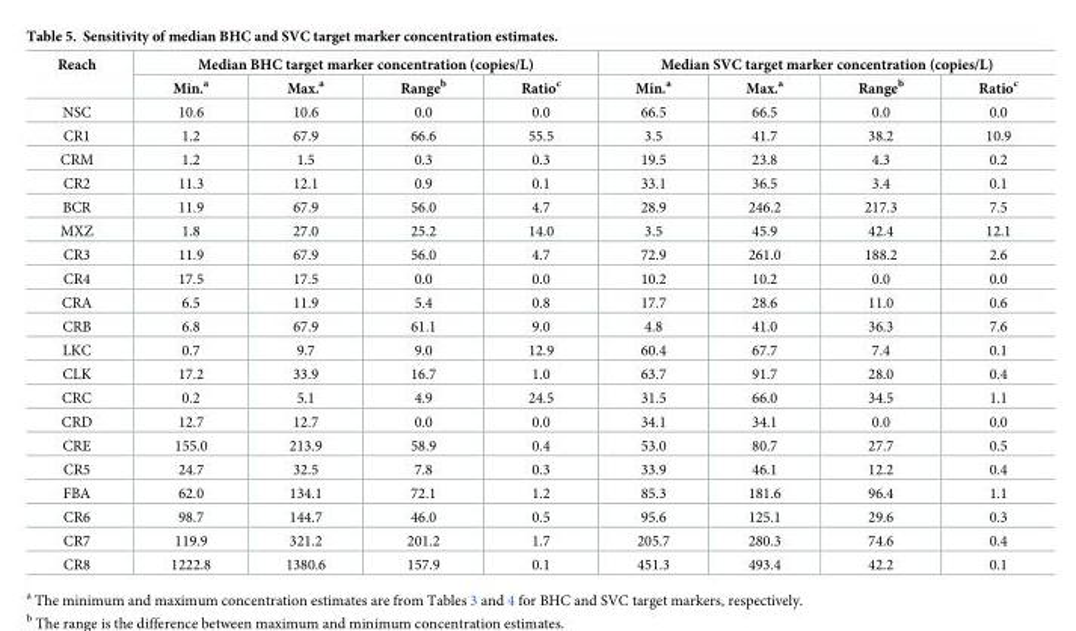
<table><thead><tr><td rowspan="2">Reach</td><td colspan="4">Median BHC target marker concentration (copies/L)</td><td colspan="4">Median SVC target marker concentration (copies/L)</td></tr><tr><td>Min.<sup>a</sup></td><td>Max.<sup>a</sup></td><td>Range<sup>b</sup></td><td>Ratio<sup>c</sup></td><td>Min.<sup>a</sup></td><td>Max.<sup>a</sup></td><td>Range<sup>b</sup></td><td>Ratio<sup>c</sup></td></tr></thead><tbody><tr><td>NSC</td><td>10.6</td><td>10.6</td><td>0.0</td><td>0.0</td><td>66.5</td><td>66.5</td><td>0.0</td><td>0.0</td></tr><tr><td>CR1</td><td>1.2</td><td>67.9</td><td>66.6</td><td>55.5</td><td>3.5</td><td>41.7</td><td>38.2</td><td>10.9</td></tr><tr><td>CRM</td><td>1.2</td><td>1.5</td><td>0.3</td><td>0.3</td><td>19.5</td><td>23.8</td><td>4.3</td><td>0.2</td></tr><tr><td>CR2</td><td>11.3</td><td>12.1</td><td>0.9</td><td>0.1</td><td>33.1</td><td>36.5</td><td>3.4</td><td>0.1</td></tr><tr><td>BCR</td><td>11.9</td><td>67.9</td><td>56.0</td><td>4.7</td><td>28.9</td><td>246.2</td><td>217.3</td><td>7.5</td></tr><tr><td>MXZ</td><td>1.8</td><td>27.0</td><td>25.2</td><td>14.0</td><td>3.5</td><td>45.9</td><td>42.4</td><td>12.1</td></tr><tr><td>CR3</td><td>11.9</td><td>67.9</td><td>56.0</td><td>4.7</td><td>72.9</td><td>261.0</td><td>188.2</td><td>2.6</td></tr><tr><td>CR4</td><td>17.5</td><td>17.5</td><td>0.0</td><td>0.0</td><td>10.2</td><td>10.2</td><td>0.0</td><td>0.0</td></tr><tr><td>CRA</td><td>6.5</td><td>11.9</td><td>5.4</td><td>0.8</td><td>17.7</td><td>28.6</td><td>11.0</td><td>0.6</td></tr><tr><td>CRB</td><td>6.8</td><td>67.9</td><td>61.1</td><td>9.0</td><td>4.8</td><td>41.0</td><td>36.3</td><td>7.6</td></tr><tr><td>LKC</td><td>0.7</td><td>9.7</td><td>9.0</td><td>12.9</td><td>60.4</td><td>67.7</td><td>7.4</td><td>0.1</td></tr><tr><td>CLK</td><td>17.2</td><td>33.9</td><td>16.7</td><td>1.0</td><td>63.7</td><td>91.7</td><td>28.0</td><td>0.4</td></tr><tr><td>CRC</td><td>0.2</td><td>5.1</td><td>4.9</td><td>24.5</td><td>31.5</td><td>66.0</td><td>34.5</td><td>1.1</td></tr><tr><td>CRD</td><td>12.7</td><td>12.7</td><td>0.0</td><td>0.0</td><td>34.1</td><td>34.1</td><td>0.0</td><td>0.0</td></tr><tr><td>CRE</td><td>155.0</td><td>213.9</td><td>58.9</td><td>0.4</td><td>53.0</td><td>80.7</td><td>27.7</td><td>0.5</td></tr><tr><td>CR5</td><td>24.7</td><td>32.5</td><td>7.8</td><td>0.3</td><td>33.9</td><td>46.1</td><td>12.2</td><td>0.4</td></tr><tr><td>FBA</td><td>62.0</td><td>134.1</td><td>72.1</td><td>1.2</td><td>85.3</td><td>181.6</td><td>96.4</td><td>1.1</td></tr><tr><td>CR6</td><td>98.7</td><td>144.7</td><td>46.0</td><td>0.5</td><td>95.6</td><td>125.1</td><td>29.6</td><td>0.3</td></tr><tr><td>CR7</td><td>119.9</td><td>321.2</td><td>201.2</td><td>1.7</td><td>205.7</td><td>280.3</td><td>74.6</td><td>0.4</td></tr><tr><td>CR8</td><td>1222.8</td><td>1380.6</td><td>157.9</td><td>0.1</td><td>451.3</td><td>493.4</td><td>42.2</td><td>0.1</td></tr></tbody></table>